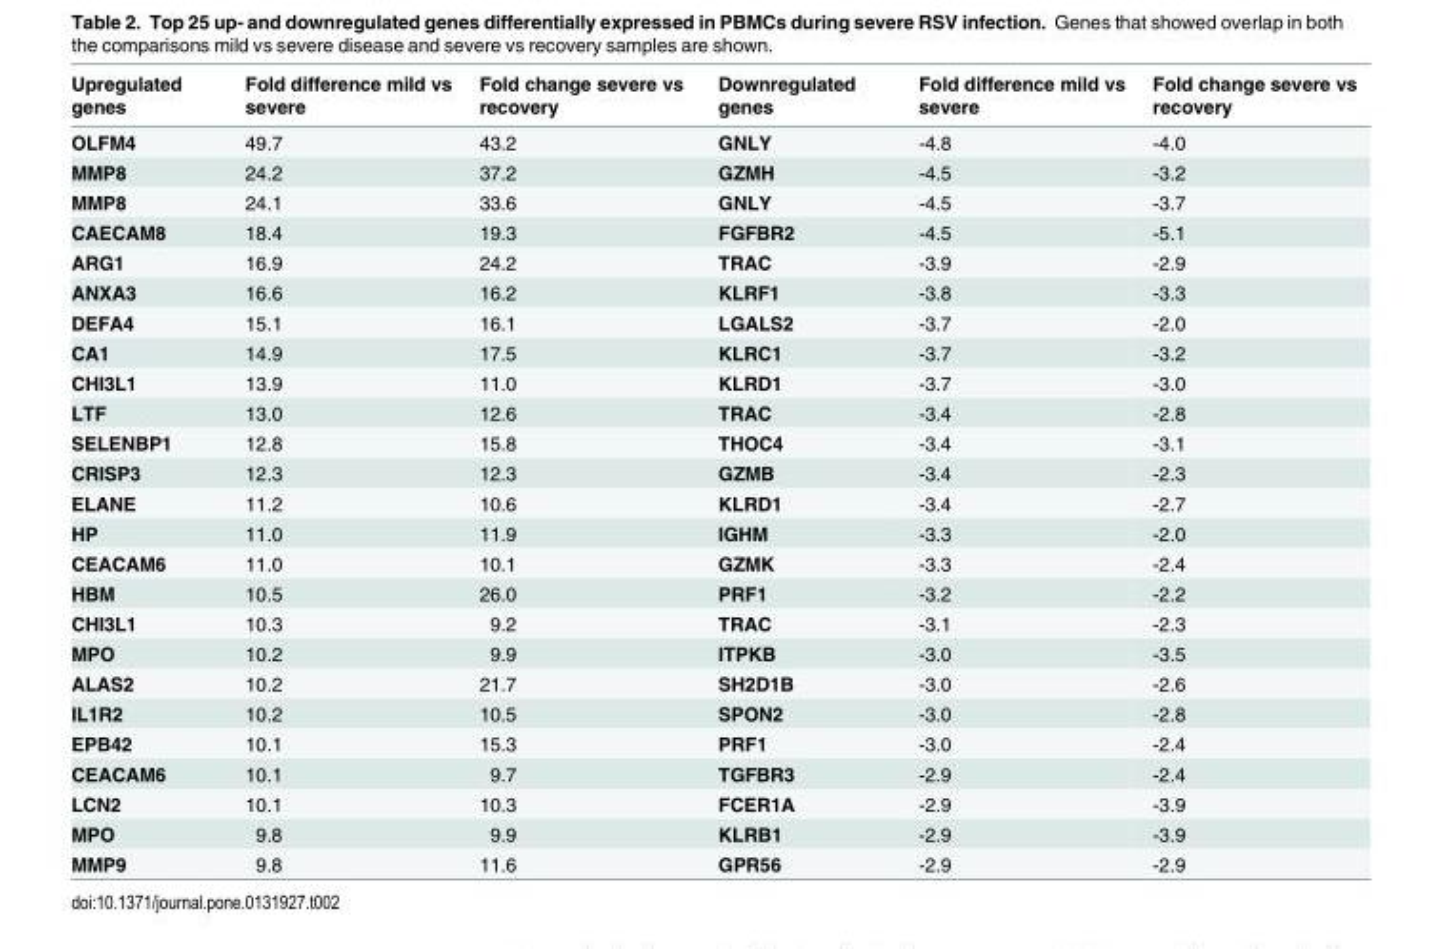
<table><thead><tr><td>Upregulated genes</td><td>Fold difference mild vs severe</td><td>Fold change severe vs recovery</td><td>Downregulated genes</td><td>Fold difference mild vs severe</td><td>Fold change severe vs recovery</td></tr></thead><tbody><tr><td>OLFM4</td><td>49.7</td><td>43.2</td><td>GNLY</td><td>-4.8</td><td>-4.0</td></tr><tr><td>MMP8</td><td>24.2</td><td>37.2</td><td>GZMH</td><td>-4.5</td><td>-3.2</td></tr><tr><td>MMP8</td><td>24.1</td><td>33.6</td><td>GNLY</td><td>-4.5</td><td>-3.7</td></tr><tr><td>CAECAM8</td><td>18.4</td><td>19.3</td><td>FGFBR2</td><td>-4.5</td><td>-5.1</td></tr><tr><td>ARG1</td><td>16.9</td><td>24.2</td><td>TRAC</td><td>-3.9</td><td>-2.9</td></tr><tr><td>ANXA3</td><td>16.6</td><td>16.2</td><td>KLRF1</td><td>-3.8</td><td>-3.3</td></tr><tr><td>DEFA4</td><td>15.1</td><td>16.1</td><td>LGALS2</td><td>-3.7</td><td>-2.0</td></tr><tr><td>CA1</td><td>14.9</td><td>17.5</td><td>KLRC1</td><td>-3.7</td><td>-3.2</td></tr><tr><td>CHI3L1</td><td>13.9</td><td>11.0</td><td>KLRD1</td><td>-3.7</td><td>-3.0</td></tr><tr><td>LTF</td><td>13.0</td><td>12.6</td><td>TRAC</td><td>-3.4</td><td>-2.8</td></tr><tr><td>SELENBP1</td><td>12.8</td><td>15.8</td><td>THOC4</td><td>-3.4</td><td>-3.1</td></tr><tr><td>CRISP3</td><td>12.3</td><td>12.3</td><td>GZMB</td><td>-3.4</td><td>-2.3</td></tr><tr><td>ELANE</td><td>11.2</td><td>10.6</td><td>KLRD1</td><td>-3.4</td><td>-2.7</td></tr><tr><td>HP</td><td>11.0</td><td>11.9</td><td>IGHM</td><td>-3.3</td><td>-2.0</td></tr><tr><td>CEACAM6</td><td>11.0</td><td>10.1</td><td>GZMK</td><td>-3.3</td><td>-2.4</td></tr><tr><td>HBM</td><td>10.5</td><td>26.0</td><td>PRF1</td><td>-3.2</td><td>-2.2</td></tr><tr><td>CHI3L1</td><td>10.3</td><td>9.2</td><td>TRAC</td><td>-3.1</td><td>-2.3</td></tr><tr><td>MPO</td><td>10.2</td><td>9.9</td><td>ITPKB</td><td>-3.0</td><td>-3.5</td></tr><tr><td>ALAS2</td><td>10.2</td><td>21.7</td><td>SH2D1B</td><td>-3.0</td><td>-2.6</td></tr><tr><td>IL1R2</td><td>10.2</td><td>10.5</td><td>SPON2</td><td>-3.0</td><td>-2.8</td></tr><tr><td>EPB42</td><td>10.1</td><td>15.3</td><td>PRF1</td><td>-3.0</td><td>-2.4</td></tr><tr><td>CEACAM6</td><td>10.1</td><td>9.7</td><td>TGFBR3</td><td>-2.9</td><td>-2.4</td></tr><tr><td>LCN2</td><td>10.1</td><td>10.3</td><td>FCER1A</td><td>-2.9</td><td>-3.9</td></tr><tr><td>MPO</td><td>9.8</td><td>9.9</td><td>KLRB1</td><td>-2.9</td><td>-3.9</td></tr><tr><td>MMP9</td><td>9.8</td><td>11.6</td><td>GPR56</td><td>-2.9</td><td>-2.9</td></tr></tbody></table>